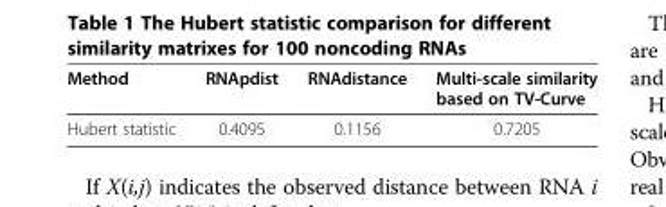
<table><thead><tr><td>Method</td><td>RNApdist</td><td>RNAdistance</td><td>Multi-scale similarity based on TV-Curve</td></tr></thead><tbody><tr><td>Hubert statistic</td><td>0.4095</td><td>0.1156</td><td>0.7205</td></tr></tbody></table>